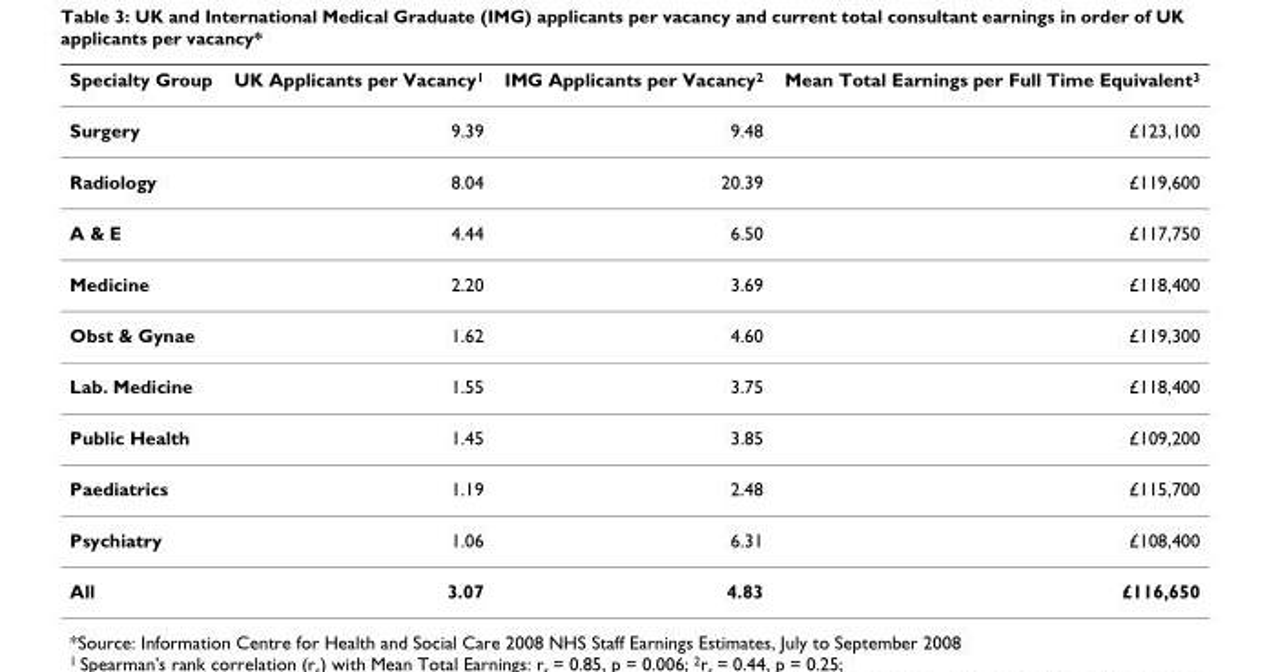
<table><thead><tr><td>Specialty Group</td><td>UK Applicants per Vacancy<sup>1</sup></td><td>IMG Applicants per Vacancy<sup>2</sup></td><td>Mean Total Earnings per Full Time Equivalent<sup>3</sup></td></tr></thead><tbody><tr><td>Surgery</td><td>9.39</td><td>9.48</td><td>£123,100</td></tr><tr><td>Radiology</td><td>8.04</td><td>20.39</td><td>£119,600</td></tr><tr><td>A &amp; E</td><td>4.44</td><td>6.50</td><td>£117,750</td></tr><tr><td>Medicine</td><td>2.20</td><td>3.69</td><td>£118,400</td></tr><tr><td>Obst &amp; Gynae</td><td>1.62</td><td>4.60</td><td>£119,300</td></tr><tr><td>Lab. Medicine</td><td>1.55</td><td>3.75</td><td>£118,400</td></tr><tr><td>Public Health</td><td>1.45</td><td>3.85</td><td>£109,200</td></tr><tr><td>Paediatrics</td><td>1.19</td><td>2.48</td><td>£115,700</td></tr><tr><td>Psychiatry</td><td>1.06</td><td>6.31</td><td>£108,400</td></tr><tr><td>All</td><td>3.07</td><td>4.83</td><td>£116,650</td></tr></tbody></table>